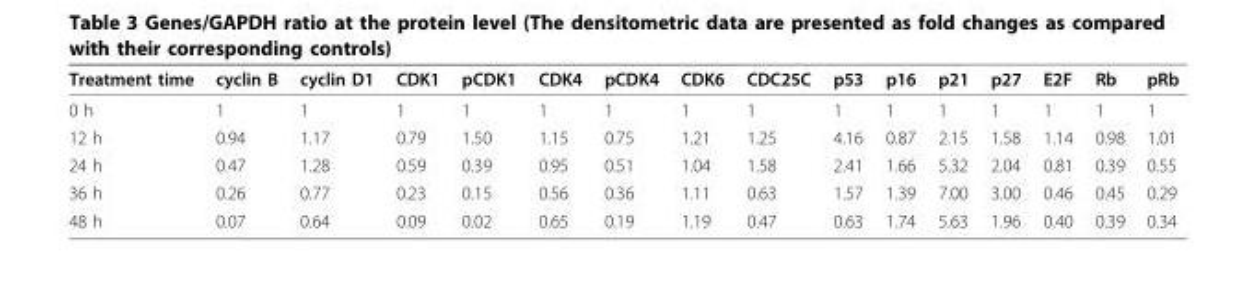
<table><thead><tr><td>Treatment time</td><td>cyclin B</td><td>cyclin D1</td><td>CDK1</td><td>pCDK1</td><td>CDK4</td><td>pCDK4</td><td>CDK6</td><td>CDC25C</td><td>p53</td><td>p16</td><td>p21</td><td>p27</td><td>E2F</td><td>Rb</td><td>pRb</td></tr></thead><tbody><tr><td>0 h</td><td>1</td><td>1</td><td>1</td><td>1</td><td>1</td><td>1</td><td>1</td><td>1</td><td>1</td><td>1</td><td>1</td><td>1</td><td>1</td><td>1</td><td>1</td></tr><tr><td>12 h</td><td>0.94</td><td>1.17</td><td>0.79</td><td>1.50</td><td>1.15</td><td>0.75</td><td>1.21</td><td>1.25</td><td>4.16</td><td>0.87</td><td>2.15</td><td>1.58</td><td>1.14</td><td>0.98</td><td>1.01</td></tr><tr><td>24 h</td><td>0.47</td><td>1.28</td><td>0.59</td><td>0.39</td><td>0.95</td><td>0.51</td><td>1.04</td><td>1.58</td><td>2.41</td><td>1.66</td><td>5.32</td><td>2.04</td><td>0.81</td><td>0.39</td><td>0.55</td></tr><tr><td>36 h</td><td>0.26</td><td>0.77</td><td>0.23</td><td>0.15</td><td>0.56</td><td>0.36</td><td>1.11</td><td>0.63</td><td>1.57</td><td>1.39</td><td>7.00</td><td>3.00</td><td>0.46</td><td>0.45</td><td>0.29</td></tr><tr><td>48 h</td><td>0.07</td><td>0.64</td><td>0.09</td><td>0.02</td><td>0.65</td><td>0.19</td><td>1.19</td><td>0.47</td><td>0.63</td><td>1.74</td><td>5.63</td><td>1.96</td><td>0.40</td><td>0.39</td><td>0.34</td></tr></tbody></table>